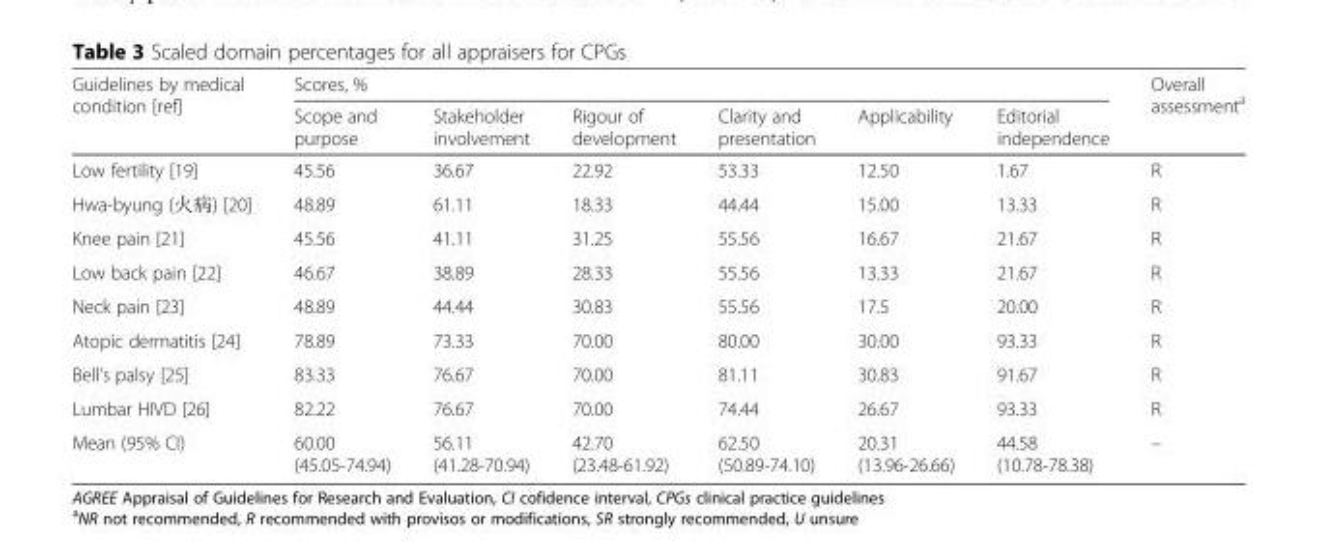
<table><thead><tr><td rowspan="2">Guidelines by medical condition [ref]</td><td colspan="6">Scores, %</td><td rowspan="2">Overall assessment<sup>a</sup></td></tr><tr><td>Scope and purpose</td><td>Stakeholder involvement</td><td>Rigour of development</td><td>Clarity and presentation</td><td>Applicability</td><td>Editorial independence</td></tr></thead><tbody><tr><td>Low fertility [19]</td><td>45.56</td><td>36.67</td><td>22.92</td><td>53.33</td><td>12.50</td><td>1.67</td><td>R</td></tr><tr><td>Hwa-byung (火病) [20]</td><td>48.89</td><td>61.11</td><td>18.33</td><td>44.44</td><td>15.00</td><td>13.33</td><td>R</td></tr><tr><td>Knee pain [21]</td><td>45.56</td><td>41.11</td><td>31.25</td><td>55.56</td><td>16.67</td><td>21.67</td><td>R</td></tr><tr><td>Low back pain [22]</td><td>46.67</td><td>38.89</td><td>28.33</td><td>55.56</td><td>13.33</td><td>21.67</td><td>R</td></tr><tr><td>Neck pain [23]</td><td>48.89</td><td>44.44</td><td>30.83</td><td>55.56</td><td>17.5</td><td>20.00</td><td>R</td></tr><tr><td>Atopic dermatitis [24]</td><td>78.89</td><td>73.33</td><td>70.00</td><td>80.00</td><td>30.00</td><td>93.33</td><td>R</td></tr><tr><td>Bell’s palsy [25]</td><td>83.33</td><td>76.67</td><td>70.00</td><td>81.11</td><td>30.83</td><td>91.67</td><td>R</td></tr><tr><td>Lumbar HIVD [26]</td><td>82.22</td><td>76.67</td><td>70.00</td><td>74.44</td><td>26.67</td><td>93.33</td><td>R</td></tr><tr><td>Mean (95% CI)</td><td>60.00 (45.05-74.94)</td><td>56.11 (41.28-70.94)</td><td>42.70 (23.48-61.92)</td><td>62.50 (50.89-74.10)</td><td>20.31 (13.96-26.66)</td><td>44.58 (10.78-78.38)</td><td>–</td></tr></tbody></table>